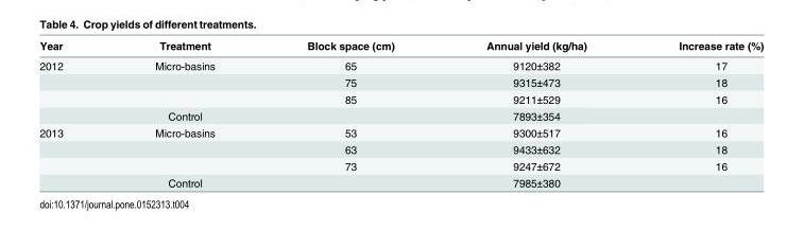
<table><thead><tr><td>Year</td><td>Treatment</td><td>Block space (cm)</td><td>Annual yield (kg/ha)</td><td>Increase rate (%)</td></tr></thead><tbody><tr><td rowspan="4">2012</td><td>Micro-basins</td><td>65</td><td>9120±382</td><td>17</td></tr><tr><td></td><td>75</td><td>9315±473</td><td>18</td></tr><tr><td></td><td>85</td><td>9211±529</td><td>16</td></tr><tr><td>Control</td><td></td><td>7893±354</td><td></td></tr><tr><td rowspan="4">2013</td><td>Micro-basins</td><td>53</td><td>9300±517</td><td>16</td></tr><tr><td></td><td>63</td><td>9433±632</td><td>18</td></tr><tr><td></td><td>73</td><td>9247±672</td><td>16</td></tr><tr><td>Control</td><td></td><td>7985±380</td><td></td></tr></tbody></table>